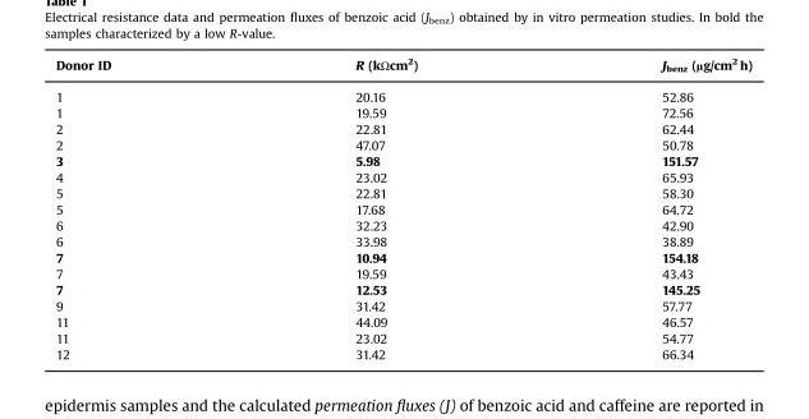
<table><thead><tr><td>Donor ID</td><td>R (kΩcm<sup>2</sup>)</td><td>J<sub>benz</sub> (µg/cm<sup>2</sup> h)</td></tr></thead><tbody><tr><td>1</td><td>20.16</td><td>52.86</td></tr><tr><td>1</td><td>19.59</td><td>72.56</td></tr><tr><td>2</td><td>22.81</td><td>62.44</td></tr><tr><td>2</td><td>47.07</td><td>50.78</td></tr><tr><td>3</td><td>5.98</td><td>151.57</td></tr><tr><td>4</td><td>23.02</td><td>65.93</td></tr><tr><td>5</td><td>22.81</td><td>58.30</td></tr><tr><td>5</td><td>17.68</td><td>64.72</td></tr><tr><td>6</td><td>32.23</td><td>42.90</td></tr><tr><td>6</td><td>33.98</td><td>38.89</td></tr><tr><td>7</td><td>10.94</td><td>154.18</td></tr><tr><td>7</td><td>19.59</td><td>43.43</td></tr><tr><td>7</td><td>12.53</td><td>145.25</td></tr><tr><td>9</td><td>31.42</td><td>57.77</td></tr><tr><td>11</td><td>44.09</td><td>46.57</td></tr><tr><td>11</td><td>23.02</td><td>54.77</td></tr><tr><td>12</td><td>31.42</td><td>66.34</td></tr></tbody></table>